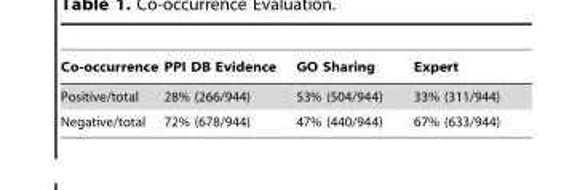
<table><thead><tr><td>Co-occurrence</td><td>PPI DB Evidence</td><td>GO Sharing</td><td>Expert</td></tr></thead><tbody><tr><td>Positive/total</td><td>28% (266/944)</td><td>53% (504/944)</td><td>33% (311/944)</td></tr><tr><td>Negative/total</td><td>72% (678/944)</td><td>47% (440/944)</td><td>67% (633/944)</td></tr></tbody></table>